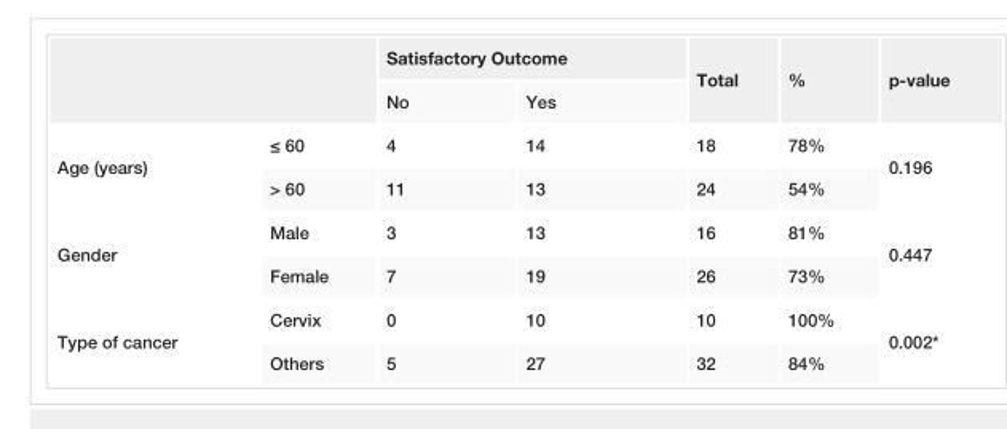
<table><thead><tr><td rowspan="2"></td><td rowspan="2"></td><td colspan="2">Satisfactory Outcome</td><td rowspan="2">Total</td><td rowspan="2">%</td><td rowspan="2">p-value</td></tr><tr><td>No</td><td>Yes</td></tr></thead><tbody><tr><td rowspan="2">Age (years)</td><td>≤ 60</td><td>4</td><td>14</td><td>18</td><td>78%</td><td rowspan="2">0.196</td></tr><tr><td>&gt; 60</td><td>11</td><td>13</td><td>24</td><td>54%</td></tr><tr><td rowspan="2">Gender</td><td>Male</td><td>3</td><td>13</td><td>16</td><td>81%</td><td rowspan="2">0.447</td></tr><tr><td>Female</td><td>7</td><td>19</td><td>26</td><td>73%</td></tr><tr><td rowspan="2">Type of cancer</td><td>Cervix</td><td>0</td><td>10</td><td>10</td><td>100%</td><td rowspan="2">0.002*</td></tr><tr><td>Others</td><td>5</td><td>27</td><td>32</td><td>84%</td></tr></tbody></table>